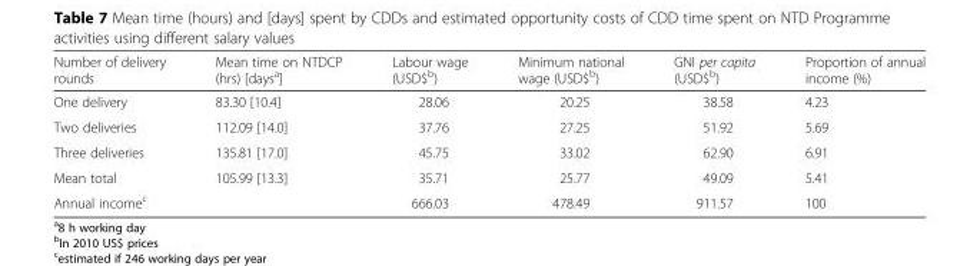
<table><thead><tr><td>Number of delivery rounds</td><td>Mean time on NTDCP (hrs) [days<sup>a</sup>]</td><td>Labour wage (USD$<sup>b</sup>)</td><td>Minimum national wage (USD$<sup>b</sup>)</td><td>GNI per capita (USD$<sup>b</sup>)</td><td>Proportion of annual income (%)</td></tr></thead><tbody><tr><td>One delivery</td><td>83.30 [10.4]</td><td>28.06</td><td>20.25</td><td>38.58</td><td>4.23</td></tr><tr><td>Two deliveries</td><td>112.09 [14.0]</td><td>37.76</td><td>27.25</td><td>51.92</td><td>5.69</td></tr><tr><td>Three deliveries</td><td>135.81 [17.0]</td><td>45.75</td><td>33.02</td><td>62.90</td><td>6.91</td></tr><tr><td>Mean total</td><td>105.99 [13.3]</td><td>35.71</td><td>25.77</td><td>49.09</td><td>5.41</td></tr><tr><td>Annual income<sup>c</sup></td><td></td><td>666.03</td><td>478.49</td><td>911.57</td><td>100</td></tr></tbody></table>